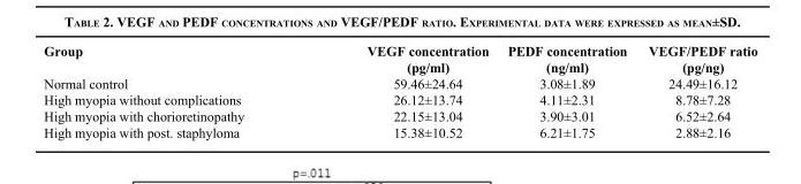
<table><thead><tr><td>Group</td><td>VEGF concentration (pg/ml)</td><td>PEDF concentration (ng/ml)</td><td>VEGF/PEDF ratio (pg/ng)</td></tr></thead><tbody><tr><td>Normal control</td><td>59.46±24.64</td><td>3.08±1.89</td><td>24.49±16.12</td></tr><tr><td>High myopia without complications</td><td>26.12±13.74</td><td>4.11±2.31</td><td>8.78±7.28</td></tr><tr><td>High myopia with chorioretinopathy</td><td>22.15±13.04</td><td>3.90±3.01</td><td>6.52±2.64</td></tr><tr><td>High myopia with post. staphyloma</td><td>15.38±10.52</td><td>6.21±1.75</td><td>2.88±2.16</td></tr></tbody></table>